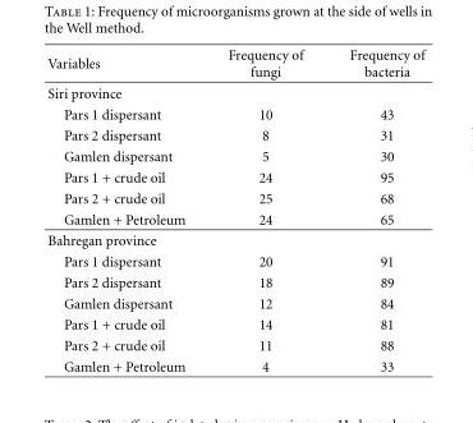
<table><thead><tr><td>Variables</td><td>Frequency of fungi</td><td>Frequency of bacteria</td></tr></thead><tbody><tr><td colspan="3">Siri province</td></tr><tr><td>Pars 1 dispersant</td><td>10</td><td>43</td></tr><tr><td>Pars 2 dispersant</td><td>8</td><td>31</td></tr><tr><td>Gamlen dispersant</td><td>5</td><td>30</td></tr><tr><td>Pars 1 + crude oil</td><td>24</td><td>95</td></tr><tr><td>Pars 2 + crude oil</td><td>25</td><td>68</td></tr><tr><td>Gamlen + Petroleum</td><td>24</td><td>65</td></tr><tr><td colspan="3">Bahregan province</td></tr><tr><td>Pars 1 dispersant</td><td>20</td><td>91</td></tr><tr><td>Pars 2 dispersant</td><td>18</td><td>89</td></tr><tr><td>Gamlen dispersant</td><td>12</td><td>84</td></tr><tr><td>Pars 1 + crude oil</td><td>14</td><td>81</td></tr><tr><td>Pars 2 + crude oil</td><td>11</td><td>88</td></tr><tr><td>Gamlen + Petroleum</td><td>4</td><td>33</td></tr></tbody></table>